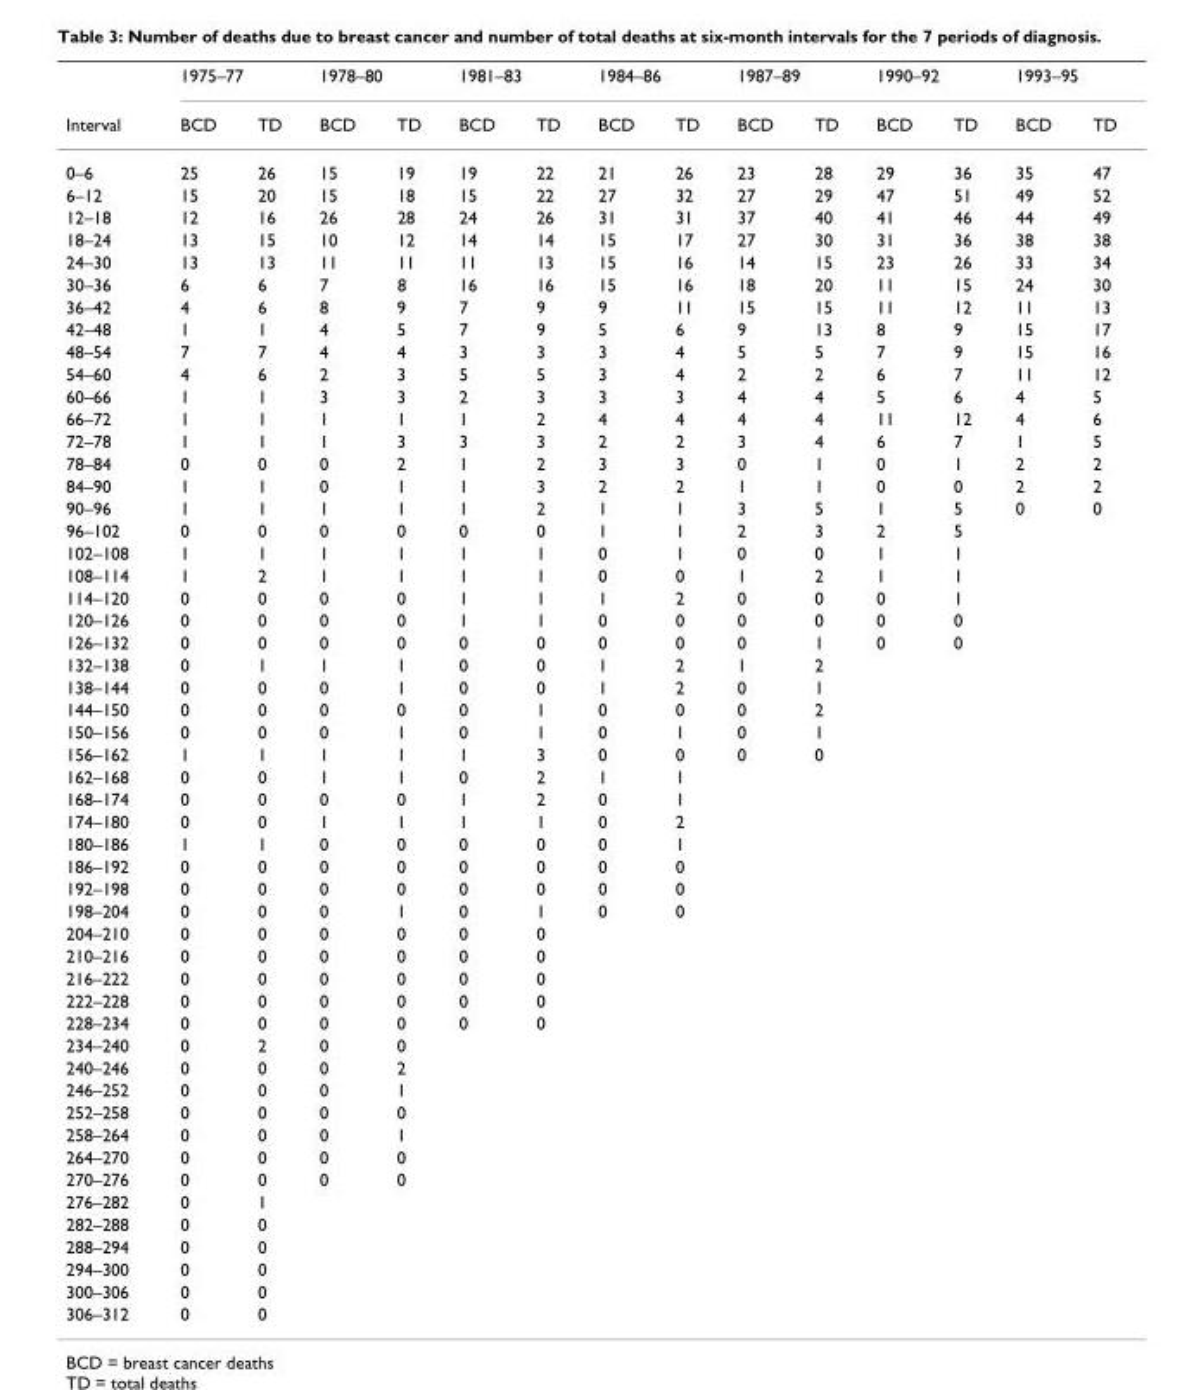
<table><thead><tr><td rowspan="2">Interval</td><td colspan="2">1975–77</td><td colspan="2">1978–80</td><td colspan="2">1981–83</td><td colspan="2">1984–86</td><td colspan="2">1987–89</td><td colspan="2">1990–92</td><td colspan="2">1993–95</td></tr><tr><td>BCD</td><td>TD</td><td>BCD</td><td>TD</td><td>BCD</td><td>TD</td><td>BCD</td><td>TD</td><td>BCD</td><td>TD</td><td>BCD</td><td>TD</td><td>BCD</td><td>TD</td></tr></thead><tbody><tr><td>0–6</td><td>25</td><td>26</td><td>15</td><td>19</td><td>19</td><td>22</td><td>21</td><td>26</td><td>23</td><td>28</td><td>29</td><td>36</td><td>35</td><td>47</td></tr><tr><td>6–12</td><td>15</td><td>20</td><td>15</td><td>18</td><td>15</td><td>22</td><td>27</td><td>32</td><td>27</td><td>29</td><td>47</td><td>51</td><td>49</td><td>52</td></tr><tr><td>12–18</td><td>12</td><td>16</td><td>26</td><td>28</td><td>24</td><td>26</td><td>31</td><td>31</td><td>37</td><td>40</td><td>41</td><td>46</td><td>44</td><td>49</td></tr><tr><td>18–24</td><td>13</td><td>15</td><td>10</td><td>12</td><td>14</td><td>14</td><td>15</td><td>17</td><td>27</td><td>30</td><td>31</td><td>36</td><td>38</td><td>38</td></tr><tr><td>24–30</td><td>13</td><td>13</td><td>11</td><td>11</td><td>11</td><td>13</td><td>15</td><td>16</td><td>14</td><td>15</td><td>23</td><td>26</td><td>33</td><td>34</td></tr><tr><td>30–36</td><td>6</td><td>6</td><td>7</td><td>8</td><td>16</td><td>16</td><td>15</td><td>16</td><td>18</td><td>20</td><td>11</td><td>15</td><td>24</td><td>30</td></tr><tr><td>36–42</td><td>4</td><td>6</td><td>8</td><td>9</td><td>7</td><td>9</td><td>9</td><td>11</td><td>15</td><td>15</td><td>11</td><td>12</td><td>11</td><td>13</td></tr><tr><td>42–48</td><td>1</td><td>1</td><td>4</td><td>5</td><td>7</td><td>9</td><td>5</td><td>6</td><td>9</td><td>13</td><td>8</td><td>9</td><td>15</td><td>17</td></tr><tr><td>48–54</td><td>7</td><td>7</td><td>4</td><td>4</td><td>3</td><td>3</td><td>3</td><td>4</td><td>5</td><td>5</td><td>7</td><td>9</td><td>15</td><td>16</td></tr><tr><td>54–60</td><td>4</td><td>6</td><td>2</td><td>3</td><td>5</td><td>5</td><td>3</td><td>4</td><td>2</td><td>2</td><td>6</td><td>7</td><td>11</td><td>12</td></tr><tr><td>60–66</td><td>1</td><td>1</td><td>3</td><td>3</td><td>2</td><td>3</td><td>3</td><td>3</td><td>4</td><td>4</td><td>5</td><td>6</td><td>4</td><td>5</td></tr><tr><td>66–72</td><td>1</td><td>1</td><td>1</td><td>1</td><td>1</td><td>2</td><td>4</td><td>4</td><td>4</td><td>4</td><td>11</td><td>12</td><td>4</td><td>6</td></tr><tr><td>72–78</td><td>1</td><td>1</td><td>1</td><td>3</td><td>3</td><td>3</td><td>2</td><td>2</td><td>3</td><td>4</td><td>6</td><td>7</td><td>1</td><td>5</td></tr><tr><td>78–84</td><td>0</td><td>0</td><td>0</td><td>2</td><td>1</td><td>2</td><td>3</td><td>3</td><td>0</td><td>1</td><td>0</td><td>1</td><td>2</td><td>2</td></tr><tr><td>84–90</td><td>1</td><td>1</td><td>0</td><td>1</td><td>1</td><td>3</td><td>2</td><td>2</td><td>1</td><td>1</td><td>0</td><td>0</td><td>2</td><td>2</td></tr><tr><td>90–96</td><td>1</td><td>1</td><td>1</td><td>1</td><td>1</td><td>2</td><td>1</td><td>1</td><td>3</td><td>5</td><td>1</td><td>5</td><td>0</td><td>0</td></tr><tr><td>96–102</td><td>0</td><td>0</td><td>0</td><td>0</td><td>0</td><td>0</td><td>1</td><td>1</td><td>2</td><td>3</td><td>2</td><td>5</td><td></td><td></td></tr><tr><td>102–108</td><td>1</td><td>1</td><td>1</td><td>1</td><td>1</td><td>1</td><td>0</td><td>1</td><td>0</td><td>0</td><td>1</td><td>1</td><td></td><td></td></tr><tr><td>108–114</td><td>1</td><td>2</td><td>1</td><td>1</td><td>1</td><td>1</td><td>0</td><td>0</td><td>1</td><td>2</td><td>1</td><td>1</td><td></td><td></td></tr><tr><td>114–120</td><td>0</td><td>0</td><td>0</td><td>0</td><td>1</td><td>1</td><td>1</td><td>2</td><td>0</td><td>0</td><td>0</td><td>1</td><td></td><td></td></tr><tr><td>120–126</td><td>0</td><td>0</td><td>0</td><td>0</td><td>1</td><td>1</td><td>0</td><td>0</td><td>0</td><td>0</td><td>0</td><td>0</td><td></td><td></td></tr><tr><td>126–132</td><td>0</td><td>0</td><td>0</td><td>0</td><td>0</td><td>0</td><td>0</td><td>0</td><td>0</td><td>1</td><td>0</td><td>0</td><td></td><td></td></tr><tr><td>132–138</td><td>0</td><td>1</td><td>1</td><td>1</td><td>0</td><td>0</td><td>1</td><td>2</td><td>1</td><td>2</td><td></td><td></td><td></td><td></td></tr><tr><td>138–144</td><td>0</td><td>0</td><td>0</td><td>1</td><td>0</td><td>0</td><td>1</td><td>2</td><td>0</td><td>1</td><td></td><td></td><td></td><td></td></tr><tr><td>144–150</td><td>0</td><td>0</td><td>0</td><td>0</td><td>0</td><td>1</td><td>0</td><td>0</td><td>0</td><td>2</td><td></td><td></td><td></td><td></td></tr><tr><td>150–156</td><td>0</td><td>0</td><td>0</td><td>1</td><td>0</td><td>1</td><td>0</td><td>1</td><td>0</td><td>1</td><td></td><td></td><td></td><td></td></tr><tr><td>156–162</td><td>1</td><td>1</td><td>1</td><td>1</td><td>1</td><td>3</td><td>0</td><td>0</td><td>0</td><td>0</td><td></td><td></td><td></td><td></td></tr><tr><td>162–168</td><td>0</td><td>0</td><td>1</td><td>1</td><td>0</td><td>2</td><td>1</td><td>1</td><td></td><td></td><td></td><td></td><td></td><td></td></tr><tr><td>168–174</td><td>0</td><td>0</td><td>0</td><td>0</td><td>1</td><td>2</td><td>0</td><td>1</td><td></td><td></td><td></td><td></td><td></td><td></td></tr><tr><td>174–180</td><td>0</td><td>0</td><td>1</td><td>1</td><td>1</td><td>1</td><td>0</td><td>2</td><td></td><td></td><td></td><td></td><td></td><td></td></tr><tr><td>180–186</td><td>1</td><td>1</td><td>0</td><td>0</td><td>0</td><td>0</td><td>0</td><td>1</td><td></td><td></td><td></td><td></td><td></td><td></td></tr><tr><td>186–192</td><td>0</td><td>0</td><td>0</td><td>0</td><td>0</td><td>0</td><td>0</td><td>0</td><td></td><td></td><td></td><td></td><td></td><td></td></tr><tr><td>192–198</td><td>0</td><td>0</td><td>0</td><td>0</td><td>0</td><td>0</td><td>0</td><td>0</td><td></td><td></td><td></td><td></td><td></td><td></td></tr><tr><td>198–204</td><td>0</td><td>0</td><td>0</td><td>1</td><td>0</td><td>1</td><td>0</td><td>0</td><td></td><td></td><td></td><td></td><td></td><td></td></tr><tr><td>204–210</td><td>0</td><td>0</td><td>0</td><td>0</td><td>0</td><td>0</td><td></td><td></td><td></td><td></td><td></td><td></td><td></td><td></td></tr><tr><td>210–216</td><td>0</td><td>0</td><td>0</td><td>0</td><td>0</td><td>0</td><td></td><td></td><td></td><td></td><td></td><td></td><td></td><td></td></tr><tr><td>216–222</td><td>0</td><td>0</td><td>0</td><td>0</td><td>0</td><td>0</td><td></td><td></td><td></td><td></td><td></td><td></td><td></td><td></td></tr><tr><td>222–228</td><td>0</td><td>0</td><td>0</td><td>0</td><td>0</td><td>0</td><td></td><td></td><td></td><td></td><td></td><td></td><td></td><td></td></tr><tr><td>228–234</td><td>0</td><td>0</td><td>0</td><td>0</td><td>0</td><td>0</td><td></td><td></td><td></td><td></td><td></td><td></td><td></td><td></td></tr><tr><td>234–240</td><td>0</td><td>2</td><td>0</td><td>0</td><td></td><td></td><td></td><td></td><td></td><td></td><td></td><td></td><td></td><td></td></tr><tr><td>240–246</td><td>0</td><td>0</td><td>0</td><td>2</td><td></td><td></td><td></td><td></td><td></td><td></td><td></td><td></td><td></td><td></td></tr><tr><td>246–252</td><td>0</td><td>0</td><td>0</td><td>1</td><td></td><td></td><td></td><td></td><td></td><td></td><td></td><td></td><td></td><td></td></tr><tr><td>252–258</td><td>0</td><td>0</td><td>0</td><td>0</td><td></td><td></td><td></td><td></td><td></td><td></td><td></td><td></td><td></td><td></td></tr><tr><td>258–264</td><td>0</td><td>0</td><td>0</td><td>1</td><td></td><td></td><td></td><td></td><td></td><td></td><td></td><td></td><td></td><td></td></tr><tr><td>264–270</td><td>0</td><td>0</td><td>0</td><td>0</td><td></td><td></td><td></td><td></td><td></td><td></td><td></td><td></td><td></td><td></td></tr><tr><td>270–276</td><td>0</td><td>0</td><td>0</td><td>0</td><td></td><td></td><td></td><td></td><td></td><td></td><td></td><td></td><td></td><td></td></tr><tr><td>276–282</td><td>0</td><td>1</td><td></td><td></td><td></td><td></td><td></td><td></td><td></td><td></td><td></td><td></td><td></td><td></td></tr><tr><td>282–288</td><td>0</td><td>0</td><td></td><td></td><td></td><td></td><td></td><td></td><td></td><td></td><td></td><td></td><td></td><td></td></tr><tr><td>288–294</td><td>0</td><td>0</td><td></td><td></td><td></td><td></td><td></td><td></td><td></td><td></td><td></td><td></td><td></td><td></td></tr><tr><td>294–300</td><td>0</td><td>0</td><td></td><td></td><td></td><td></td><td></td><td></td><td></td><td></td><td></td><td></td><td></td><td></td></tr><tr><td>300–306</td><td>0</td><td>0</td><td></td><td></td><td></td><td></td><td></td><td></td><td></td><td></td><td></td><td></td><td></td><td></td></tr><tr><td>306–312</td><td>0</td><td>0</td><td></td><td></td><td></td><td></td><td></td><td></td><td></td><td></td><td></td><td></td><td></td><td></td></tr></tbody></table>